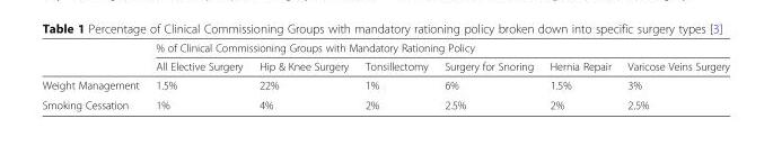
<table><thead><tr><td rowspan="2"></td><td colspan="6">% of Clinical Commissioning Groups with Mandatory Rationing Policy</td></tr><tr><td>All Elective Surgery</td><td>Hip &amp; Knee Surgery</td><td>Tonsillectomy</td><td>Surgery for Snoring</td><td>Hernia Repair</td><td>Varicose Veins Surgery</td></tr></thead><tbody><tr><td>Weight Management</td><td>1.5%</td><td>22%</td><td>1%</td><td>6%</td><td>1.5%</td><td>3%</td></tr><tr><td>Smoking Cessation</td><td>1%</td><td>4%</td><td>2%</td><td>2.5%</td><td>2%</td><td>2.5%</td></tr></tbody></table>